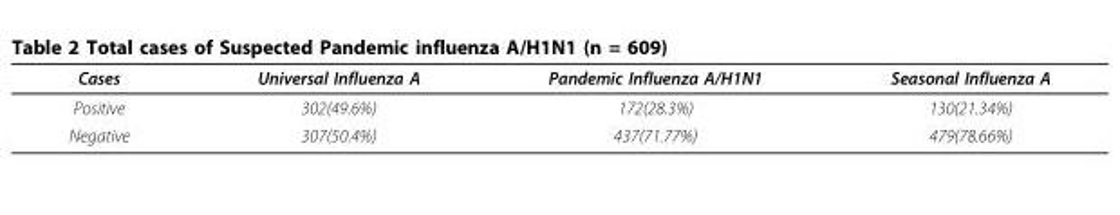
<table><thead><tr><td>Cases</td><td>Universal Influenza A</td><td>Pandemic Influenza A/H1N1</td><td>Seasonal Influenza A</td></tr></thead><tbody><tr><td>Positive</td><td>302(49.6%)</td><td>172(28.3%)</td><td>130(21.34%)</td></tr><tr><td>Negative</td><td>307(50.4%)</td><td>437(71.77%)</td><td>479(78.66%)</td></tr></tbody></table>